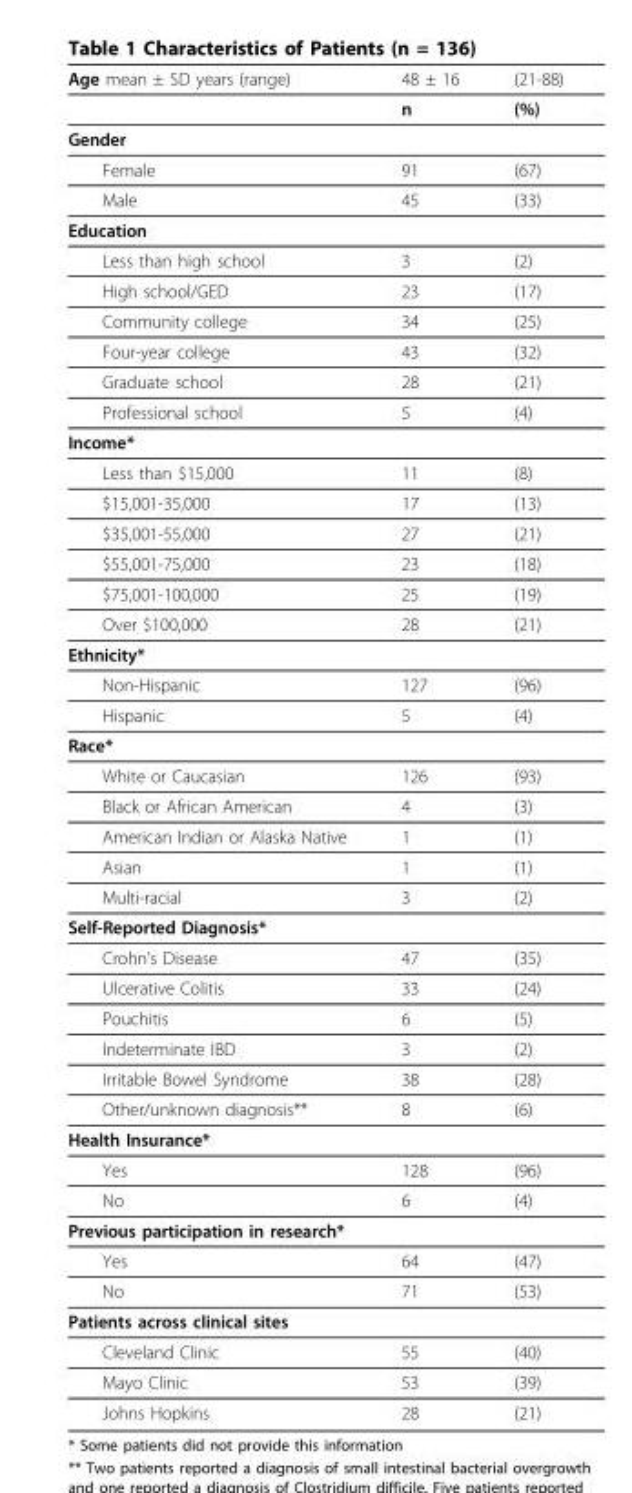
<table><thead><tr><td>Age mean ± SD years (range)</td><td>48 ± 16</td><td>(21-88)</td></tr></thead><tbody><tr><td></td><td>n</td><td>(%)</td></tr><tr><td colspan="3">Gender</td></tr><tr><td>Female</td><td>91</td><td>(67)</td></tr><tr><td>Male</td><td>45</td><td>(33)</td></tr><tr><td colspan="3">Education</td></tr><tr><td>Less than high school</td><td>3</td><td>(2)</td></tr><tr><td>High school/GED</td><td>23</td><td>(17)</td></tr><tr><td>Community college</td><td>34</td><td>(25)</td></tr><tr><td>Four-year college</td><td>43</td><td>(32)</td></tr><tr><td>Graduate school</td><td>28</td><td>(21)</td></tr><tr><td>Professional school</td><td>5</td><td>(4)</td></tr><tr><td colspan="3">Income*</td></tr><tr><td>Less than $15,000</td><td>11</td><td>(8)</td></tr><tr><td>$15,001-35,000</td><td>17</td><td>(13)</td></tr><tr><td>$35,001-55,000</td><td>27</td><td>(21)</td></tr><tr><td>$55,001-75,000</td><td>23</td><td>(18)</td></tr><tr><td>$75,001-100,000</td><td>25</td><td>(19)</td></tr><tr><td>Over $100,000</td><td>28</td><td>(21)</td></tr><tr><td colspan="3">Ethnicity*</td></tr><tr><td>Non-Hispanic</td><td>127</td><td>(96)</td></tr><tr><td>Hispanic</td><td>5</td><td>(4)</td></tr><tr><td colspan="3">Race*</td></tr><tr><td>White or Caucasian</td><td>126</td><td>(93)</td></tr><tr><td>Black or African American</td><td>4</td><td>(3)</td></tr><tr><td>American Indian or Alaska Native</td><td>1</td><td>(1)</td></tr><tr><td>Asian</td><td>1</td><td>(1)</td></tr><tr><td>Multi-racial</td><td>3</td><td>(2)</td></tr><tr><td colspan="3">Self-Reported Diagnosis*</td></tr><tr><td>Crohn’s Disease</td><td>47</td><td>(35)</td></tr><tr><td>Ulcerative Colitis</td><td>33</td><td>(24)</td></tr><tr><td>Pouchitis</td><td>6</td><td>(5)</td></tr><tr><td>Indeterminate IBD</td><td>3</td><td>(2)</td></tr><tr><td>Irritable Bowel Syndrome</td><td>38</td><td>(28)</td></tr><tr><td>Other/unknown diagnosis**</td><td>8</td><td>(6)</td></tr><tr><td colspan="3">Health Insurance*</td></tr><tr><td>Yes</td><td>128</td><td>(96)</td></tr><tr><td>No</td><td>6</td><td>(4)</td></tr><tr><td colspan="3">Previous participation in research*</td></tr><tr><td>Yes</td><td>64</td><td>(47)</td></tr><tr><td>No</td><td>71</td><td>(53)</td></tr><tr><td colspan="3">Patients across clinical sites</td></tr><tr><td>Cleveland Clinic</td><td>55</td><td>(40)</td></tr><tr><td>Mayo Clinic</td><td>53</td><td>(39)</td></tr><tr><td>Johns Hopkins</td><td>28</td><td>(21)</td></tr></tbody></table>